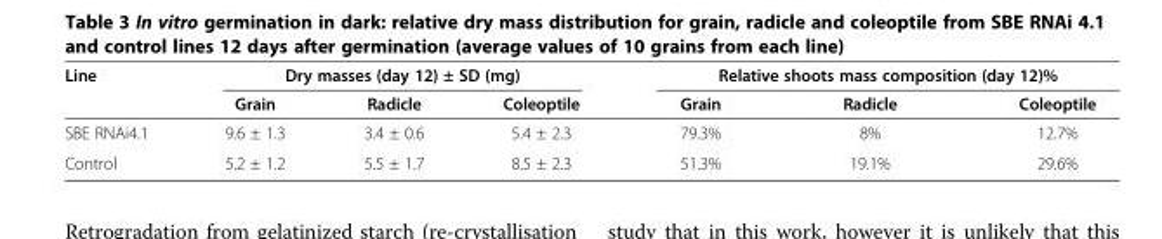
<table><thead><tr><td rowspan="2">Line</td><td colspan="3">Dry masses (day 12) ± SD (mg)</td><td colspan="3">Relative shoots mass composition (day 12)%</td></tr><tr><td>Grain</td><td>Radicle</td><td>Coleoptile</td><td>Grain</td><td>Radicle</td><td>Coleoptile</td></tr></thead><tbody><tr><td>SBE RNAi4.1</td><td>9.6 ± 1.3</td><td>3.4 ± 0.6</td><td>5.4 ± 2.3</td><td>79.3%</td><td>8%</td><td>12.7%</td></tr><tr><td>Control</td><td>5.2 ± 1.2</td><td>5.5 ± 1.7</td><td>8.5 ± 2.3</td><td>51.3%</td><td>19.1%</td><td>29.6%</td></tr></tbody></table>